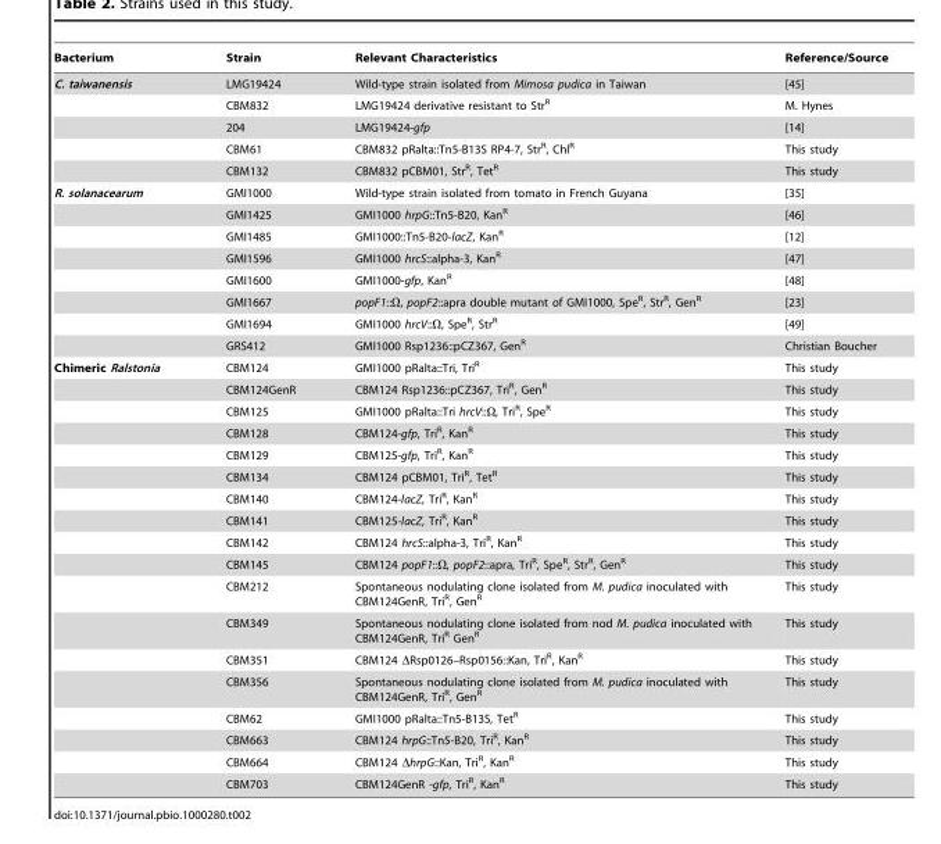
<table><thead><tr><td>Bacterium</td><td>Strain</td><td>Relevant Characteristics</td><td>Reference/Source</td></tr></thead><tbody><tr><td rowspan="5">C. taiwanensis</td><td>LMG19424</td><td>Wild-type strain isolated from Mimosa pudica in Taiwan</td><td>[45]</td></tr><tr><td>CBM832</td><td>LMG19424 derivative resistant to Str<sup>R</sup></td><td>M. Hynes</td></tr><tr><td>204</td><td>LMG19424-gfp</td><td>[14]</td></tr><tr><td>CBM61</td><td>CBM832 pRalta::Tn5-B13S RP4-7, Str<sup>R</sup>, Chl<sup>R</sup></td><td>This study</td></tr><tr><td>CBM132</td><td>CBM832 pCBM01, Str<sup>R</sup>, Tet<sup>R</sup></td><td>This study</td></tr><tr><td rowspan="8">R. solanacearum</td><td>GMI1000</td><td>Wild-type strain isolated from tomato in French Guyana</td><td>[35]</td></tr><tr><td>GMI1425</td><td>GMI1000 hrpG::Tn5-B20, Kan<sup>R</sup></td><td>[46]</td></tr><tr><td>GMI1485</td><td>GMI1000::Tn5-B20-lacZ, Kan<sup>R</sup></td><td>[12]</td></tr><tr><td>GMI1596</td><td>GMI1000 hrcS::alpha-3, Kan<sup>R</sup></td><td>[47]</td></tr><tr><td>GMI1600</td><td>GMI1000-gfp, Kan<sup>R</sup></td><td>[48]</td></tr><tr><td>GMI1667</td><td>popF1::Ω, popF2::apra double mutant of GMI1000, Spe<sup>R</sup>, Str<sup>R</sup>, Gen<sup>R</sup></td><td>[23]</td></tr><tr><td>GMI1694</td><td>GMI1000 hrcV::Ω, Spe<sup>R</sup>, Str<sup>R</sup></td><td>[49]</td></tr><tr><td>GRS412</td><td>GMI1000 Rsp1236::pCZ367, Gen<sup>R</sup></td><td>Christian Boucher</td></tr><tr><td rowspan="18">Chimeric Ralstonia</td><td>CBM124</td><td>GMI1000 pRalta::Tri, Tri<sup>R</sup></td><td>This study</td></tr><tr><td>CBM124GenR</td><td>CBM124 Rsp1236::pCZ367, Tri<sup>R</sup>, Gen<sup>R</sup></td><td>This study</td></tr><tr><td>CBM125</td><td>GMI1000 pRalta::Tri hrcV::Ω, Tri<sup>R</sup>, Spe<sup>R</sup></td><td>This study</td></tr><tr><td>CBM128</td><td>CBM124-gfp, Tri<sup>R</sup>, Kan<sup>R</sup></td><td>This study</td></tr><tr><td>CBM129</td><td>CBM125-gfp, Tri<sup>R</sup>, Kan<sup>R</sup></td><td>This study</td></tr><tr><td>CBM134</td><td>CBM124 pCBM01, Tri<sup>R</sup>, Tet<sup>R</sup></td><td>This study</td></tr><tr><td>CBM140</td><td>CBM124-lacZ, Tri<sup>R</sup>, Kan<sup>R</sup></td><td>This study</td></tr><tr><td>CBM141</td><td>CBM125-lacZ, Tri<sup>R</sup>, Kan<sup>R</sup></td><td>This study</td></tr><tr><td>CBM142</td><td>CBM124 hrcS::alpha-3, Tri<sup>R</sup>, Kan<sup>R</sup></td><td>This study</td></tr><tr><td>CBM145</td><td>CBM124 popF1::Ω, popF2::apra, Tri<sup>R</sup>, Spe<sup>R</sup>, Str<sup>R</sup>, Gen<sup>R</sup></td><td>This study</td></tr><tr><td>CBM212</td><td>Spontaneous nodulating clone isolated from M. pudica inoculated with CBM124GenR, Tri<sup>R</sup>, Gen<sup>R</sup></td><td>This study</td></tr><tr><td>CBM349</td><td>Spontaneous nodulating clone isolated from nod M. pudica inoculated with CBM124GenR, Tri<sup>R</sup> Gen<sup>R</sup></td><td>This study</td></tr><tr><td>CBM351</td><td>CBM124 ΔRsp0126–Rsp0156::Kan, Tri<sup>R</sup>, Kan<sup>R</sup></td><td>This study</td></tr><tr><td>CBM356</td><td>Spontaneous nodulating clone isolated from M. pudica inoculated with CBM124GenR, Tri<sup>R</sup>, Gen<sup>R</sup></td><td>This study</td></tr><tr><td>CBM62</td><td>GMI1000 pRalta::Tn5-B13S, Tet<sup>R</sup></td><td>This study</td></tr><tr><td>CBM663</td><td>CBM124 hrpG::Tn5-B20, Tri<sup>R</sup>, Kan<sup>R</sup></td><td>This study</td></tr><tr><td>CBM664</td><td>CBM124 ΔhrpG::Kan, Tri<sup>R</sup>, Kan<sup>R</sup></td><td>This study</td></tr><tr><td>CBM703</td><td>CBM124GenR -gfp, Tri<sup>R</sup>, Kan<sup>R</sup></td><td>This study</td></tr></tbody></table>